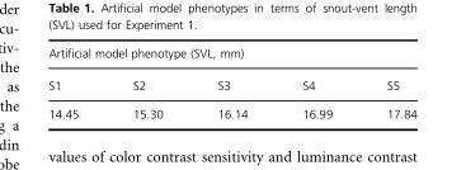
<table><thead><tr><td colspan="5">Artificial model phenotype (SVL, mm)</td></tr><tr><td>S1</td><td>S2</td><td>S3</td><td>S4</td><td>S5</td></tr></thead><tbody><tr><td>14.45</td><td>15.30</td><td>16.14</td><td>16.99</td><td>17.84</td></tr></tbody></table>